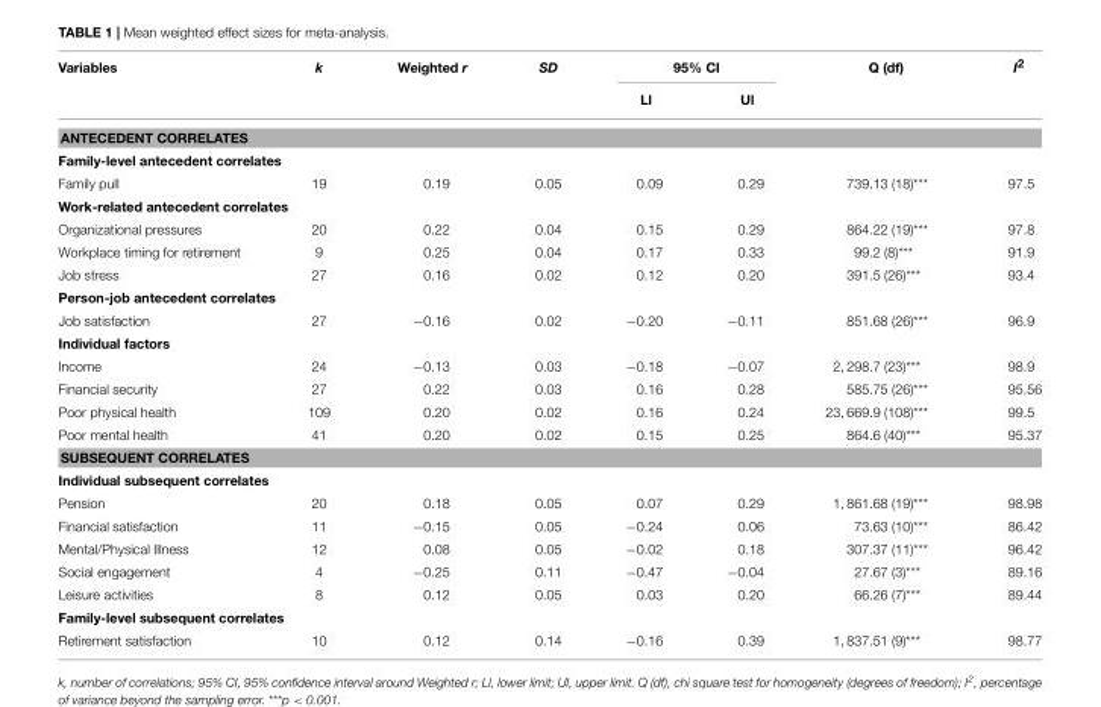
<table><thead><tr><td rowspan="2">Variables</td><td rowspan="2">k</td><td rowspan="2">Weighted r</td><td rowspan="2">SD</td><td colspan="2">95% CI</td><td rowspan="2">Q (df)</td><td rowspan="2">I<sup>2</sup></td></tr><tr><td>Ll</td><td>Ul</td></tr></thead><tbody><tr><td colspan="8">ANTECEDENT CORRELATES</td></tr><tr><td colspan="8">Family-level antecedent correlates</td></tr><tr><td>Family pull</td><td>19</td><td>0.19</td><td>0.05</td><td>0.09</td><td>0.29</td><td>739.13 (18)***</td><td>97.5</td></tr><tr><td colspan="8">Work-related antecedent correlates</td></tr><tr><td>Organizational pressures</td><td>20</td><td>0.22</td><td>0.04</td><td>0.15</td><td>0.29</td><td>864.22 (19)***</td><td>97.8</td></tr><tr><td>Workplace timing for retirement</td><td>9</td><td>0.25</td><td>0.04</td><td>0.17</td><td>0.33</td><td>99.2 (8)***</td><td>91.9</td></tr><tr><td>Job stress</td><td>27</td><td>0.16</td><td>0.02</td><td>0.12</td><td>0.20</td><td>391.5 (26)***</td><td>93.4</td></tr><tr><td colspan="8">Person-job antecedent correlates</td></tr><tr><td>Job satisfaction</td><td>27</td><td>−0.16</td><td>0.02</td><td>−0.20</td><td>−0.11</td><td>851.68 (26)***</td><td>96.9</td></tr><tr><td colspan="8">Individual factors</td></tr><tr><td>Income</td><td>24</td><td>−0.13</td><td>0.03</td><td>−0.18</td><td>−0.07</td><td>2, 298.7 (23)***</td><td>98.9</td></tr><tr><td>Financial security</td><td>27</td><td>0.22</td><td>0.03</td><td>0.16</td><td>0.28</td><td>585.75 (26)***</td><td>95.56</td></tr><tr><td>Poor physical health</td><td>109</td><td>0.20</td><td>0.02</td><td>0.16</td><td>0.24</td><td>23, 669.9 (108)***</td><td>99.5</td></tr><tr><td>Poor mental health</td><td>41</td><td>0.20</td><td>0.02</td><td>0.15</td><td>0.25</td><td>864.6 (40)***</td><td>95.37</td></tr><tr><td colspan="8">SUBSEQUENT CORRELATES</td></tr><tr><td colspan="8">Individual subsequent correlates</td></tr><tr><td>Pension</td><td>20</td><td>0.18</td><td>0.05</td><td>0.07</td><td>0.29</td><td>1, 861.68 (19)***</td><td>98.98</td></tr><tr><td>Financial satisfaction</td><td>11</td><td>−0.15</td><td>0.05</td><td>−0.24</td><td>0.06</td><td>73.63 (10)***</td><td>86.42</td></tr><tr><td>Mental/Physical Illness</td><td>12</td><td>0.08</td><td>0.05</td><td>−0.02</td><td>0.18</td><td>307.37 (11)***</td><td>96.42</td></tr><tr><td>Social engagement</td><td>4</td><td>−0.25</td><td>0.11</td><td>−0.47</td><td>−0.04</td><td>27.67 (3)***</td><td>89.16</td></tr><tr><td>Leisure activities</td><td>8</td><td>0.12</td><td>0.05</td><td>0.03</td><td>0.20</td><td>66.26 (7)***</td><td>89.44</td></tr><tr><td colspan="8">Family-level subsequent correlates</td></tr><tr><td>Retirement satisfaction</td><td>10</td><td>0.12</td><td>0.14</td><td>−0.16</td><td>0.39</td><td>1, 837.51 (9)***</td><td>98.77</td></tr></tbody></table>